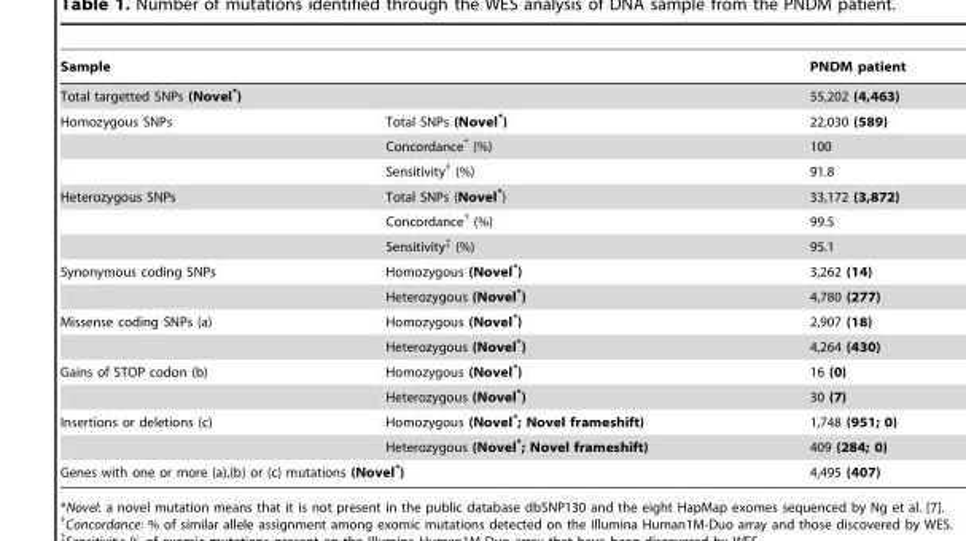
<table><thead><tr><td rowspan="2" colspan="2">Sample Total targetted SNPs (Novel*)</td><td rowspan="3">PNDM patient 55,202 (4,463) 22,030 (589)</td></tr><tr></tr><tr><td>Homozygous SNPs</td><td>Total SNPs (Novel*)</td></tr></thead><tbody><tr><td></td><td>Concordance* (%)</td><td>100</td></tr><tr><td></td><td>Sensitivity† (%)</td><td>91.8</td></tr><tr><td rowspan="3">Heterozygous SNPs</td><td>Total SNPs (Novel*)</td><td>33,172 (3,872)</td></tr><tr><td>Concordance† (%)</td><td>99.5</td></tr><tr><td>Sensitivity‡ (%)</td><td>95.1</td></tr><tr><td rowspan="2">Synonymous coding SNPs</td><td>Homozygous (Novel*)</td><td>3,262 (14)</td></tr><tr><td>Heterozygous (Novel*)</td><td>4,780 (277)</td></tr><tr><td rowspan="2">Missense coding SNPs (a)</td><td>Homozygous (Novel*)</td><td>2,907 (18)</td></tr><tr><td>Heterozygous (Novel*)</td><td>4,264 (430)</td></tr><tr><td rowspan="2">Gains of STOP codon (b)</td><td>Homozygous (Novel*)</td><td>16 (0)</td></tr><tr><td>Heterozygous (Novel*)</td><td>30 (7)</td></tr><tr><td rowspan="2">Insertions or deletions (c)</td><td>Homozygous (Novel*; Novel frameshift)</td><td>1,748 (951; 0)</td></tr><tr><td>Heterozygous (Novel*; Novel frameshift)</td><td>409 (284; 0)</td></tr><tr><td colspan="2">Genes with one or more (a),(b) or (c) mutations (Novel*)</td><td>4,495 (407)</td></tr></tbody></table>